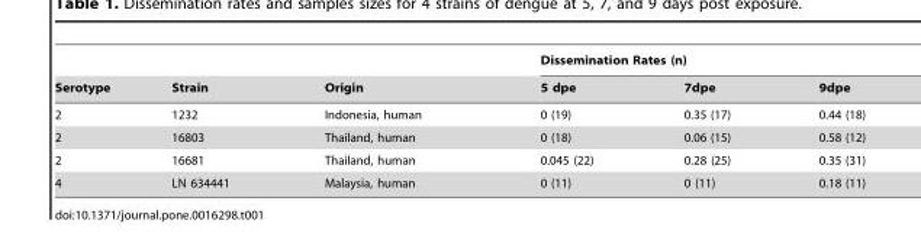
<table><thead><tr><td rowspan="2">Serotype</td><td rowspan="2">Strain</td><td rowspan="2">Origin</td><td colspan="3">Dissemination Rates (n)</td></tr><tr><td>5 dpe</td><td>7dpe</td><td>9dpe</td></tr></thead><tbody><tr><td>2</td><td>1232</td><td>Indonesia, human</td><td>0 (19)</td><td>0.35 (17)</td><td>0.44 (18)</td></tr><tr><td>2</td><td>16803</td><td>Thailand, human</td><td>0 (18)</td><td>0.06 (15)</td><td>0.58 (12)</td></tr><tr><td>2</td><td>16681</td><td>Thailand, human</td><td>0.045 (22)</td><td>0.28 (25)</td><td>0.35 (31)</td></tr><tr><td>4</td><td>LN 634441</td><td>Malaysia, human</td><td>0 (11)</td><td>0 (11)</td><td>0.18 (11)</td></tr></tbody></table>